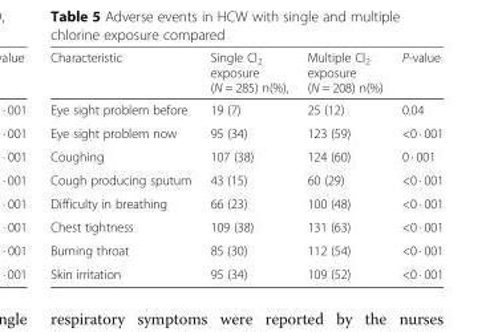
<table><thead><tr><td>Characteristic</td><td>Single Cl<sub>2</sub> exposure (N = 285) n(%),</td><td>Multiple Cl<sub>2</sub> exposure (N = 208) n(%)</td><td>P-value</td></tr></thead><tbody><tr><td>Eye sight problem before</td><td>19 (7)</td><td>25 (12)</td><td>0.04</td></tr><tr><td>Eye sight problem now</td><td>95 (34)</td><td>123 (59)</td><td>&lt;0 · 001</td></tr><tr><td>Coughing</td><td>107 (38)</td><td>124 (60)</td><td>0 · 001</td></tr><tr><td>Cough producing sputum</td><td>43 (15)</td><td>60 (29)</td><td>&lt;0 · 001</td></tr><tr><td>Difficulty in breathing</td><td>66 (23)</td><td>100 (48)</td><td>&lt;0 · 001</td></tr><tr><td>Chest tightness</td><td>109 (38)</td><td>131 (63)</td><td>&lt;0 · 001</td></tr><tr><td>Burning throat</td><td>85 (30)</td><td>112 (54)</td><td>&lt;0 · 001</td></tr><tr><td>Skin irritation</td><td>95 (34)</td><td>109 (52)</td><td>&lt;0 · 001</td></tr></tbody></table>